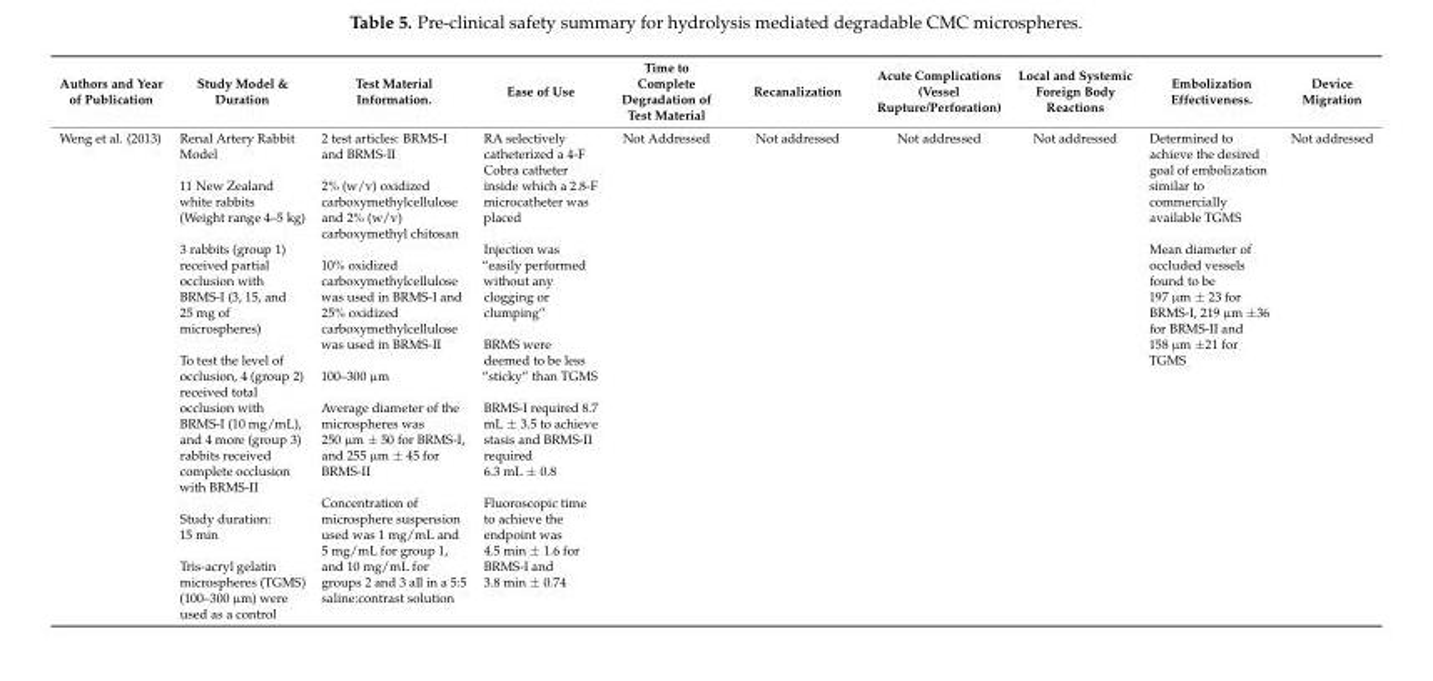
<table><thead><tr><td>Authors and Year of Publication</td><td>Study Model &amp; Duration</td><td>Test Material Information.</td><td>Ease of Use</td><td>Time to Complete Degradation of Test Material</td><td>Recanalization</td><td>Acute Complications (Vessel Rupture/Perforation)</td><td>Local and Systemic Foreign Body Reactions</td><td>Embolization Effectiveness.</td><td>Device Migration</td></tr></thead><tbody><tr><td>Weng et al. (2013)</td><td>Renal Artery Rabbit Model 11 New Zealand white rabbits (Weight range 4–5 kg) 3 rabbits (group 1) received partial occlusion with BRMS-I (3, 15, and 25 mg of microspheres) To test the level of occlusion, 4 (group 2) received total occlusion with BRMS-I (10 mg/mL), and 4 more (group 3) rabbits received complete occlusion with BRMS-II Study duration: 15 min Tris-acryl gelatin microspheres (TGMS) (100–300 µm) were used as a control</td><td>2 test articles: BRMS-I and BRMS-II 2% (w/v) oxidized carboxymethylcellulose and 2% (w/v) carboxymethyl chitosan 10% oxidized carboxymethylcellulose was used in BRMS-I and 25% oxidized carboxymethylcellulose was used in BRMS-II 100–300 µm Average diameter of the microspheres was 250 µm ± 50 for BRMS-I, and 255 µm ± 45 for BRMS-II Concentration of microsphere suspension used was 1 mg/mL and 5 mg/mL for group 1, and 10 mg/mL for groups 2 and 3 all in a 5:5 saline:contrast solution</td><td>RA selectively catheterized a 4-F Cobra catheter inside which a 2.8-F microcatheter was placed Injection was “easily performed without any clogging or clumping” BRMS were deemed to be less “sticky” than TGMS BRMS-I required 8.7 mL ± 3.5 to achieve stasis and BRMS-II required 6.3 mL ± 0.8 Fluoroscopic time to achieve the endpoint was 4.5 min ± 1.6 for BRMS-I and 3.8 min ± 0.74</td><td>Not Addressed</td><td>Not addressed</td><td>Not addressed</td><td>Not addressed</td><td>Determined to achieve the desired goal of embolization similar to commercially available TGMS Mean diameter of occluded vessels found to be 197 µm ± 23 for BRMS-I, 219 µm ±36 for BRMS-II and 158 µm ±21 for TGMS</td><td>Not addressed</td></tr></tbody></table>